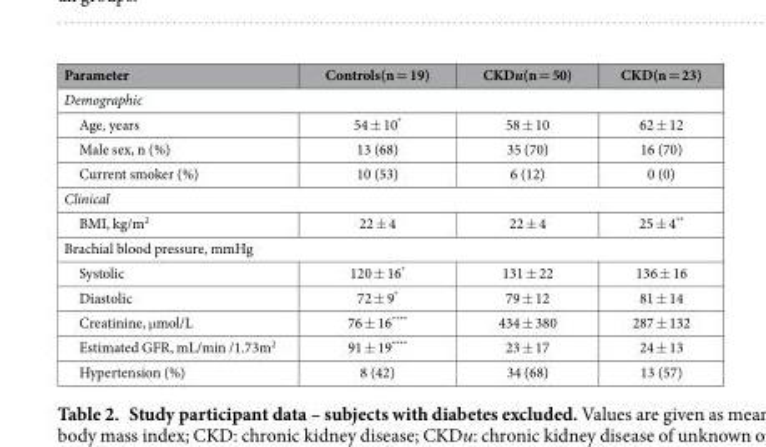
<table><thead><tr><td>Parameter</td><td>Controls(n = 19)</td><td>CKDu(n = 50)</td><td>CKD(n = 23)</td></tr></thead><tbody><tr><td colspan="4">Demographic</td></tr><tr><td>Age, years</td><td>54 ± 10*</td><td>58 ± 10</td><td>62 ± 12</td></tr><tr><td>Male sex, n (%)</td><td>13 (68)</td><td>35 (70)</td><td>16 (70)</td></tr><tr><td>Current smoker (%)</td><td>10 (53)</td><td>6 (12)</td><td>0 (0)</td></tr><tr><td colspan="4">Clinical</td></tr><tr><td>BMI, kg/m<sup>2</sup></td><td>22 ± 4</td><td>22 ± 4</td><td>25 ± 4**</td></tr><tr><td colspan="4">Brachial blood pressure, mmHg</td></tr><tr><td>Systolic</td><td>120 ± 16*</td><td>131 ± 22</td><td>136 ± 16</td></tr><tr><td>Diastolic</td><td>72 ± 9*</td><td>79 ± 12</td><td>81 ± 14</td></tr><tr><td>Creatinine, μ mol/L</td><td>76 ± 16****</td><td>434 ± 380</td><td>287 ± 132</td></tr><tr><td>Estimated GFR, mL/min /1.73m<sup>2</sup></td><td>91 ± 19****</td><td>23 ± 17</td><td>24 ± 13</td></tr><tr><td>Hypertension (%)</td><td>8 (42)</td><td>34 (68)</td><td>13 (57)</td></tr></tbody></table>